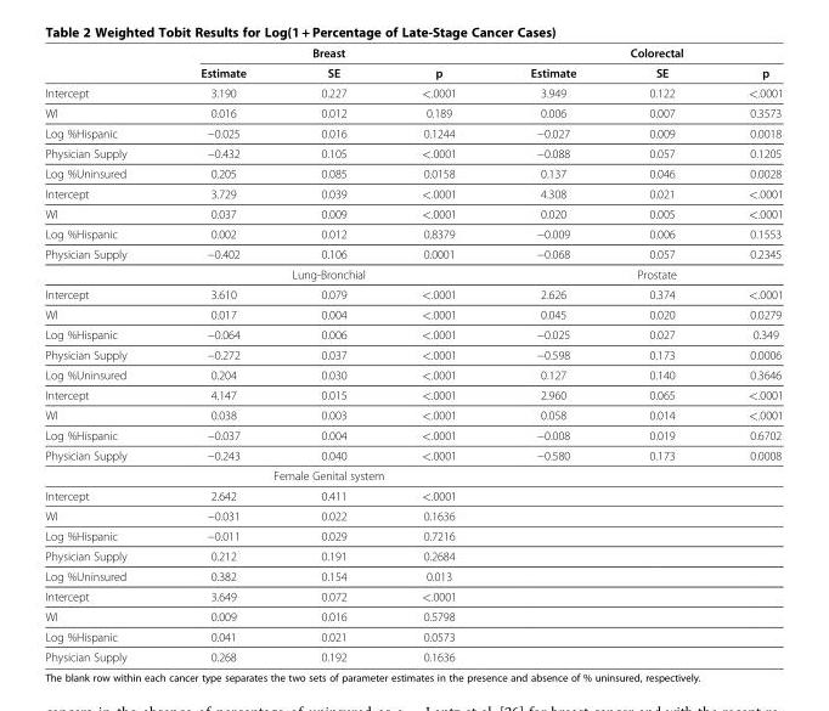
<table><thead><tr><td rowspan="2"></td><td colspan="3">Breast</td><td colspan="3">Colorectal</td></tr><tr><td>Estimate</td><td>SE</td><td>p</td><td>Estimate</td><td>SE</td><td>p</td></tr></thead><tbody><tr><td>Intercept</td><td>3.190</td><td>0.227</td><td>&lt;.0001</td><td>3.949</td><td>0.122</td><td>&lt;.0001</td></tr><tr><td>WI</td><td>0.016</td><td>0.012</td><td>0.189</td><td>0.006</td><td>0.007</td><td>0.3573</td></tr><tr><td>Log %Hispanic</td><td>−0.025</td><td>0.016</td><td>0.1244</td><td>−0.027</td><td>0.009</td><td>0.0018</td></tr><tr><td>Physician Supply</td><td>−0.432</td><td>0.105</td><td>&lt;.0001</td><td>−0.088</td><td>0.057</td><td>0.1205</td></tr><tr><td>Log %Uninsured</td><td>0.205</td><td>0.085</td><td>0.0158</td><td>0.137</td><td>0.046</td><td>0.0028</td></tr><tr><td>Intercept</td><td>3.729</td><td>0.039</td><td>&lt;.0001</td><td>4.308</td><td>0.021</td><td>&lt;.0001</td></tr><tr><td>WI</td><td>0.037</td><td>0.009</td><td>&lt;.0001</td><td>0.020</td><td>0.005</td><td>&lt;.0001</td></tr><tr><td>Log %Hispanic</td><td>0.002</td><td>0.012</td><td>0.8379</td><td>−0.009</td><td>0.006</td><td>0.1553</td></tr><tr><td rowspan="2">Physician Supply</td><td>−0.402</td><td>0.106</td><td>0.0001</td><td>−0.068</td><td>0.057</td><td>0.2345</td></tr><tr><td colspan="3">Lung-Bronchial</td><td colspan="3">Prostate</td></tr><tr><td>Intercept</td><td>3.610</td><td>0.079</td><td>&lt;.0001</td><td>2.626</td><td>0.374</td><td>&lt;.0001</td></tr><tr><td>WI</td><td>0.017</td><td>0.004</td><td>&lt;.0001</td><td>0.045</td><td>0.020</td><td>0.0279</td></tr><tr><td>Log %Hispanic</td><td>−0.064</td><td>0.006</td><td>&lt;.0001</td><td>−0.025</td><td>0.027</td><td>0.349</td></tr><tr><td>Physician Supply</td><td>−0.272</td><td>0.037</td><td>&lt;.0001</td><td>−0.598</td><td>0.173</td><td>0.0006</td></tr><tr><td>Log %Uninsured</td><td>0.204</td><td>0.030</td><td>&lt;.0001</td><td>0.127</td><td>0.140</td><td>0.3646</td></tr><tr><td>Intercept</td><td>4.147</td><td>0.015</td><td>&lt;.0001</td><td>2.960</td><td>0.065</td><td>&lt;.0001</td></tr><tr><td>WI</td><td>0.038</td><td>0.003</td><td>&lt;.0001</td><td>0.058</td><td>0.014</td><td>&lt;.0001</td></tr><tr><td>Log %Hispanic</td><td>−0.037</td><td>0.004</td><td>&lt;.0001</td><td>−0.008</td><td>0.019</td><td>0.6702</td></tr><tr><td rowspan="2">Physician Supply</td><td>−0.243</td><td>0.040</td><td>&lt;.0001</td><td>−0.580</td><td>0.173</td><td>0.0008</td></tr><tr><td colspan="3">Female Genital system</td><td></td><td></td><td></td></tr><tr><td>Intercept</td><td>2.642</td><td>0.411</td><td>&lt;.0001</td><td></td><td></td><td></td></tr><tr><td>WI</td><td>−0.031</td><td>0.022</td><td>0.1636</td><td></td><td></td><td></td></tr><tr><td>Log %Hispanic</td><td>−0.011</td><td>0.029</td><td>0.7216</td><td></td><td></td><td></td></tr><tr><td>Physician Supply</td><td>0.212</td><td>0.191</td><td>0.2684</td><td></td><td></td><td></td></tr><tr><td>Log %Uninsured</td><td>0.382</td><td>0.154</td><td>0.013</td><td></td><td></td><td></td></tr><tr><td>Intercept</td><td>3.649</td><td>0.072</td><td>&lt;.0001</td><td></td><td></td><td></td></tr><tr><td>WI</td><td>0.009</td><td>0.016</td><td>0.5798</td><td></td><td></td><td></td></tr><tr><td>Log %Hispanic</td><td>0.041</td><td>0.021</td><td>0.0573</td><td></td><td></td><td></td></tr><tr><td>Physician Supply</td><td>0.268</td><td>0.192</td><td>0.1636</td><td></td><td></td><td></td></tr></tbody></table>